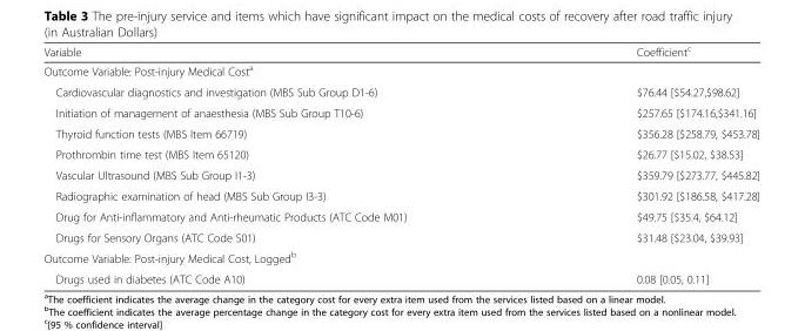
<table><thead><tr><td>Variable</td><td>Coefficient<sup>c</sup></td></tr></thead><tbody><tr><td colspan="2">Outcome Variable: Post-injury Medical Cost<sup>a</sup></td></tr><tr><td>Cardiovascular diagnostics and investigation (MBS Sub Group D1-6)</td><td>$76.44 [$54.27,$98.62]</td></tr><tr><td>Initiation of management of anaesthesia (MBS Sub Group T10-6)</td><td>$257.65 [$174.16,$341.16]</td></tr><tr><td>Thyroid function tests (MBS Item 66719)</td><td>$356.28 [$258.79, $453.78]</td></tr><tr><td>Prothrombin time test (MBS Item 65120)</td><td>$26.77 [$15.02, $38.53]</td></tr><tr><td>Vascular Ultrasound (MBS Sub Group I1-3)</td><td>$359.79 [$273.77, $445.82]</td></tr><tr><td>Radiographic examination of head (MBS Sub Group I3-3)</td><td>$301.92 [$186.58, $417.28]</td></tr><tr><td>Drug for Anti-inflammatory and Anti-rheumatic Products (ATC Code M01)</td><td>$49.75 [$35.4, $64.12]</td></tr><tr><td>Drugs for Sensory Organs (ATC Code S01)</td><td>$31.48 [$23.04, $39.93]</td></tr><tr><td colspan="2">Outcome Variable: Post-injury Medical Cost, Logged<sup>b</sup></td></tr><tr><td>Drugs used in diabetes (ATC Code A10)</td><td>0.08 [0.05, 0.11]</td></tr></tbody></table>